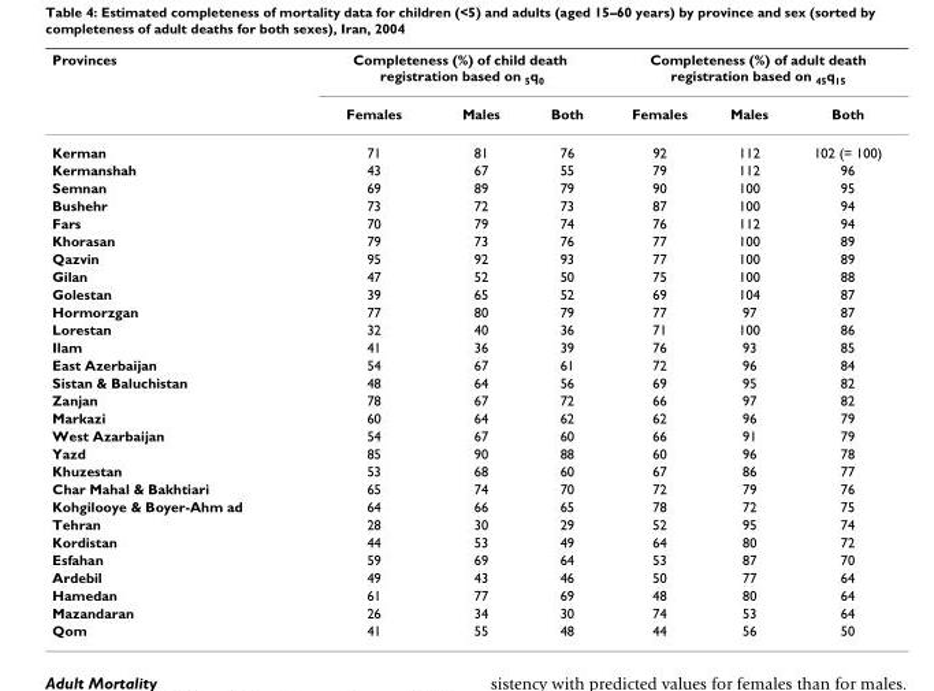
<table><thead><tr><td rowspan="2">Provinces</td><td colspan="3">Completeness (%) of child death registration based on <sub>5</sub>q<sub>0</sub></td><td colspan="3">Completeness (%) of adult death registration based on <sub>45</sub>q<sub>15</sub></td></tr><tr><td>Females</td><td>Males</td><td>Both</td><td>Females</td><td>Males</td><td>Both</td></tr></thead><tbody><tr><td>Kerman</td><td>71</td><td>81</td><td>76</td><td>92</td><td>112</td><td>102 (= 100)</td></tr><tr><td>Kermanshah</td><td>43</td><td>67</td><td>55</td><td>79</td><td>112</td><td>96</td></tr><tr><td>Semnan</td><td>69</td><td>89</td><td>79</td><td>90</td><td>100</td><td>95</td></tr><tr><td>Bushehr</td><td>73</td><td>72</td><td>73</td><td>87</td><td>100</td><td>94</td></tr><tr><td>Fars</td><td>70</td><td>79</td><td>74</td><td>76</td><td>112</td><td>94</td></tr><tr><td>Khorasan</td><td>79</td><td>73</td><td>76</td><td>77</td><td>100</td><td>89</td></tr><tr><td>Qazvin</td><td>95</td><td>92</td><td>93</td><td>77</td><td>100</td><td>89</td></tr><tr><td>Gilan</td><td>47</td><td>52</td><td>50</td><td>75</td><td>100</td><td>88</td></tr><tr><td>Golestan</td><td>39</td><td>65</td><td>52</td><td>69</td><td>104</td><td>87</td></tr><tr><td>Hormorzgan</td><td>77</td><td>80</td><td>79</td><td>77</td><td>97</td><td>87</td></tr><tr><td>Lorestan</td><td>32</td><td>40</td><td>36</td><td>71</td><td>100</td><td>86</td></tr><tr><td>Ilam</td><td>41</td><td>36</td><td>39</td><td>76</td><td>93</td><td>85</td></tr><tr><td>East Azerbaijan</td><td>54</td><td>67</td><td>61</td><td>72</td><td>96</td><td>84</td></tr><tr><td>Sistan &amp; Baluchistan</td><td>48</td><td>64</td><td>56</td><td>69</td><td>95</td><td>82</td></tr><tr><td>Zanjan</td><td>78</td><td>67</td><td>72</td><td>66</td><td>97</td><td>82</td></tr><tr><td>Markazi</td><td>60</td><td>64</td><td>62</td><td>62</td><td>96</td><td>79</td></tr><tr><td>West Azarbaijan</td><td>54</td><td>67</td><td>60</td><td>66</td><td>91</td><td>79</td></tr><tr><td>Yazd</td><td>85</td><td>90</td><td>88</td><td>60</td><td>96</td><td>78</td></tr><tr><td>Khuzestan</td><td>53</td><td>68</td><td>60</td><td>67</td><td>86</td><td>77</td></tr><tr><td>Char Mahal &amp; Bakhtiari</td><td>65</td><td>74</td><td>70</td><td>72</td><td>79</td><td>76</td></tr><tr><td>Kohgilooye &amp; Boyer-Ahm ad</td><td>64</td><td>66</td><td>65</td><td>78</td><td>72</td><td>75</td></tr><tr><td>Tehran</td><td>28</td><td>30</td><td>29</td><td>52</td><td>95</td><td>74</td></tr><tr><td>Kordistan</td><td>44</td><td>53</td><td>49</td><td>64</td><td>80</td><td>72</td></tr><tr><td>Esfahan</td><td>59</td><td>69</td><td>64</td><td>53</td><td>87</td><td>70</td></tr><tr><td>Ardebil</td><td>49</td><td>43</td><td>46</td><td>50</td><td>77</td><td>64</td></tr><tr><td>Hamedan</td><td>61</td><td>77</td><td>69</td><td>48</td><td>80</td><td>64</td></tr><tr><td>Mazandaran</td><td>26</td><td>34</td><td>30</td><td>74</td><td>53</td><td>64</td></tr><tr><td>Qom</td><td>41</td><td>55</td><td>48</td><td>44</td><td>56</td><td>50</td></tr></tbody></table>